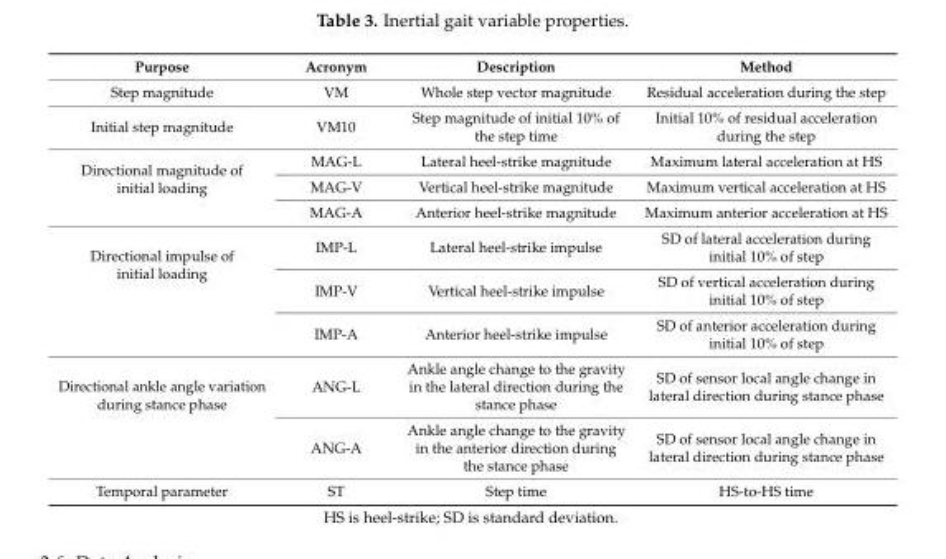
<table><thead><tr><td>Purpose</td><td>Acronym</td><td>Description</td><td>Method</td></tr></thead><tbody><tr><td>Step magnitude</td><td>VM</td><td>Whole step vector magnitude</td><td>Residual acceleration during the step</td></tr><tr><td>Initial step magnitude</td><td>VM10</td><td>Step magnitude of initial 10% of the step time</td><td>Initial 10% of residual acceleration during the step</td></tr><tr><td rowspan="3">Directional magnitude of initial loading</td><td>MAG-L</td><td>Lateral heel-strike magnitude</td><td>Maximum lateral acceleration at HS</td></tr><tr><td>MAG-V</td><td>Vertical heel-strike magnitude</td><td>Maximum vertical acceleration at HS</td></tr><tr><td>MAG-A</td><td>Anterior heel-strike magnitude</td><td>Maximum anterior acceleration at HS</td></tr><tr><td rowspan="3">Directional impulse of initial loading</td><td>IMP-L</td><td>Lateral heel-strike impulse</td><td>SD of lateral acceleration during initial 10% of step</td></tr><tr><td>IMP-V</td><td>Vertical heel-strike impulse</td><td>SD of vertical acceleration during initial 10% of step</td></tr><tr><td>IMP-A</td><td>Anterior heel-strike impulse</td><td>SD of anterior acceleration during initial 10% of step</td></tr><tr><td rowspan="2">Directional ankle angle variation during stance phase</td><td>ANG-L</td><td>Ankle angle change to the gravity in the lateral direction during the stance phase</td><td>SD of sensor local angle change in lateral direction during stance phase</td></tr><tr><td>ANG-A</td><td>Ankle angle change to the gravity in the anterior direction during the stance phase</td><td>SD of sensor local angle change in lateral direction during stance phase</td></tr><tr><td>Temporal parameter</td><td>ST</td><td>Step time</td><td>HS-to-HS time</td></tr></tbody></table>